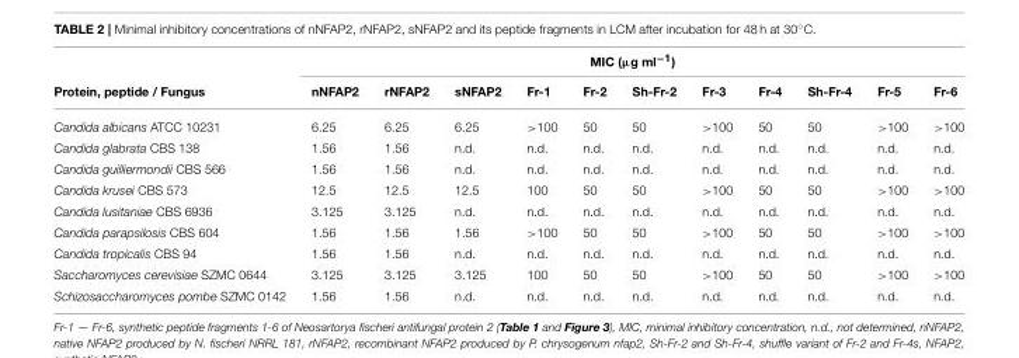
<table><thead><tr><td rowspan="2">Protein, peptide / Fungus</td><td colspan="11">MIC (µg ml<sup>−1</sup>)</td></tr><tr><td>nNFAP2</td><td>rNFAP2</td><td>sNFAP2</td><td>Fr-1</td><td>Fr-2</td><td>Sh-Fr-2</td><td>Fr-3</td><td>Fr-4</td><td>Sh-Fr-4</td><td>Fr-5</td><td>Fr-6</td></tr></thead><tbody><tr><td>Candida albicans ATCC 10231</td><td>6.25</td><td>6.25</td><td>6.25</td><td>&gt;100</td><td>50</td><td>50</td><td>&gt;100</td><td>50</td><td>50</td><td>&gt;100</td><td>&gt;100</td></tr><tr><td>Candida glabrata CBS 138</td><td>1.56</td><td>1.56</td><td>n.d.</td><td>n.d.</td><td>n.d.</td><td>n.d.</td><td>n.d.</td><td>n.d.</td><td>n.d.</td><td>n.d.</td><td>n.d.</td></tr><tr><td>Candida guilliermondii CBS 566</td><td>1.56</td><td>1.56</td><td>n.d.</td><td>n.d.</td><td>n.d.</td><td>n.d.</td><td>n.d.</td><td>n.d.</td><td>n.d.</td><td>n.d.</td><td>n.d.</td></tr><tr><td>Candida krusei CBS 573</td><td>12.5</td><td>12.5</td><td>12.5</td><td>100</td><td>50</td><td>50</td><td>&gt;100</td><td>50</td><td>50</td><td>&gt;100</td><td>&gt;100</td></tr><tr><td>Candida lusitaniae CBS 6936</td><td>3.125</td><td>3.125</td><td>n.d.</td><td>n.d.</td><td>n.d.</td><td>n.d.</td><td>n.d.</td><td>n.d.</td><td>n.d.</td><td>n.d.</td><td>n.d.</td></tr><tr><td>Candida parapsilosis CBS 604</td><td>1.56</td><td>1.56</td><td>1.56</td><td>&gt;100</td><td>50</td><td>50</td><td>&gt;100</td><td>50</td><td>50</td><td>&gt;100</td><td>&gt;100</td></tr><tr><td>Candida tropicalis CBS 94</td><td>1.56</td><td>1.56</td><td>n.d.</td><td>n.d.</td><td>n.d.</td><td>n.d.</td><td>n.d.</td><td>n.d.</td><td>n.d.</td><td>n.d.</td><td>n.d.</td></tr><tr><td>Saccharomyces cerevisiae SZMC 0644</td><td>3.125</td><td>3.125</td><td>3.125</td><td>100</td><td>50</td><td>50</td><td>&gt;100</td><td>50</td><td>50</td><td>&gt;100</td><td>&gt;100</td></tr><tr><td>Schizosaccharomyces pombe SZMC 0142</td><td>1.56</td><td>1.56</td><td>n.d.</td><td>n.d.</td><td>n.d.</td><td>n.d.</td><td>n.d.</td><td>n.d.</td><td>n.d.</td><td>n.d.</td><td>n.d.</td></tr></tbody></table>